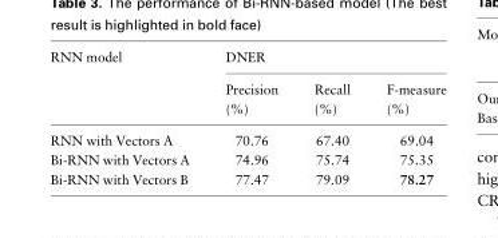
<table><thead><tr><td rowspan="2">RNN model</td><td colspan="3">DNER</td></tr><tr><td>Precision (%)</td><td>Recall (%)</td><td>F-measure (%)</td></tr></thead><tbody><tr><td>RNN with Vectors A</td><td>70.76</td><td>67.40</td><td>69.04</td></tr><tr><td>Bi-RNN with Vectors A</td><td>74.96</td><td>75.74</td><td>75.35</td></tr><tr><td>Bi-RNN with Vectors B</td><td>77.47</td><td>79.09</td><td>78.27</td></tr></tbody></table>